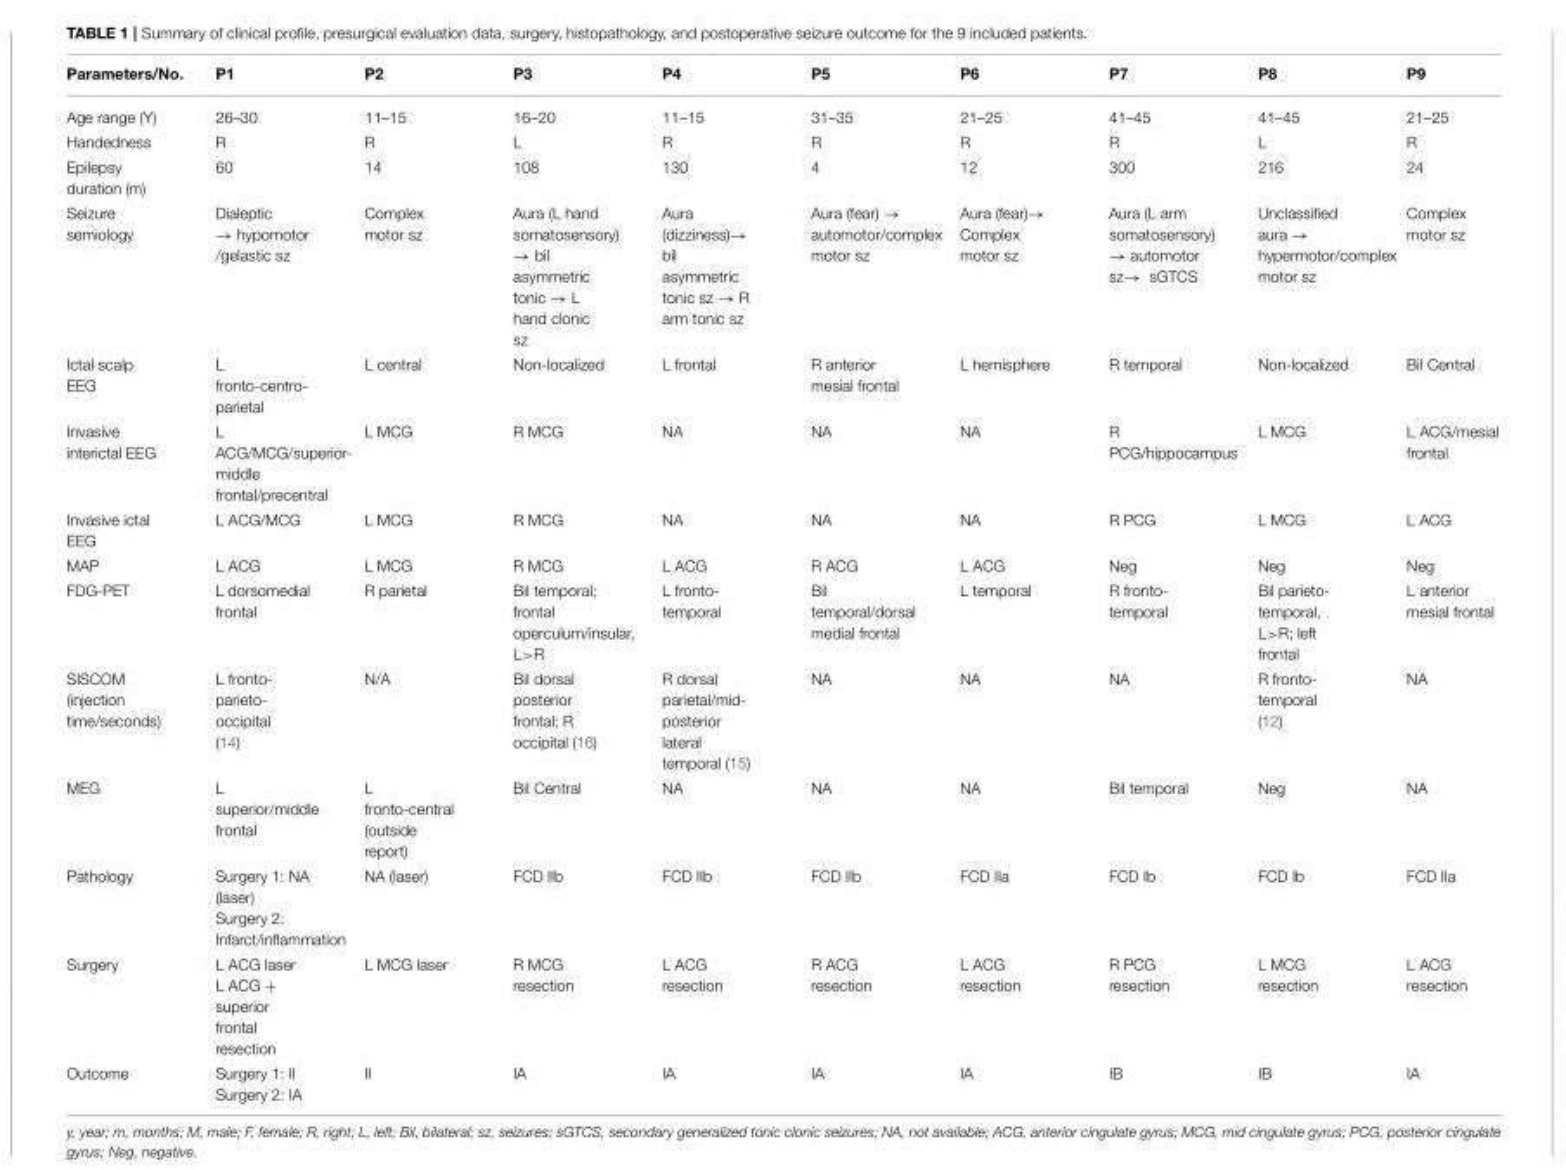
<table><thead><tr><td>Parameters/No.</td><td>P1</td><td>P2</td><td>P3</td><td>P4</td><td>P5</td><td>P6</td><td>P7</td><td>P8</td><td>P9</td></tr></thead><tbody><tr><td>Age range (Y)</td><td>26–30</td><td>11–15</td><td>16–20</td><td>11–15</td><td>31–35</td><td>21–25</td><td>41–45</td><td>41–45</td><td>21–25</td></tr><tr><td>Handedness</td><td>R</td><td>R</td><td>L</td><td>R</td><td>R</td><td>R</td><td>R</td><td>L</td><td>R</td></tr><tr><td>Epilepsy duration (m)</td><td>60</td><td>14</td><td>108</td><td>130</td><td>4</td><td>12</td><td>300</td><td>216</td><td>24</td></tr><tr><td>Seizure semiology</td><td>Dialeptic → hypomotor /gelastic sz</td><td>Complex motor sz</td><td>Aura (L hand somatosensory) → bil asymmetric tonic → L hand clonic sz</td><td>Aura (dizziness)→ bil asymmetric tonic sz → R arm tonic sz</td><td>Aura (fear) → automotor/complex motor sz</td><td>Aura (fear)→ Complex motor sz</td><td>Aura (L arm somatosensory) → automotor sz→ sGTCS</td><td>Unclassified aura → hypermotor/complex motor sz</td><td>Complex motor sz</td></tr><tr><td>Ictal scalp EEG</td><td>L fronto-centro- parietal</td><td>L central</td><td>Non-localized</td><td>L frontal</td><td>R anterior mesial frontal</td><td>L hemisphere</td><td>R temporal</td><td>Non-localized</td><td>Bil Central</td></tr><tr><td>Invasive interictal EEG</td><td>L ACG/MCG/superior- middle frontal/precentral</td><td>L MCG</td><td>R MCG</td><td>NA</td><td>NA</td><td>NA</td><td>R PCG/hippocampus</td><td>L MCG</td><td>L ACG/mesial frontal</td></tr><tr><td>Invasive ictal EEG</td><td>L ACG/MCG</td><td>L MCG</td><td>R MCG</td><td>NA</td><td>NA</td><td>NA</td><td>R PCG</td><td>L MCG</td><td>L ACG</td></tr><tr><td>MAP</td><td>L ACG</td><td>L MCG</td><td>R MCG</td><td>L ACG</td><td>R ACG</td><td>L ACG</td><td>Neg</td><td>Neg</td><td>Neg</td></tr><tr><td>FDG-PET</td><td>L dorsomedial frontal</td><td>R parietal</td><td>Bil temporal; frontal operculum/insular, L&gt;R</td><td>L fronto- temporal</td><td>Bil temporal/dorsal medial frontal</td><td>L temporal</td><td>R fronto- temporal</td><td>Bil parieto- temporal, L&gt;R; left frontal</td><td>L anterior mesial frontal</td></tr><tr><td>SISCOM (injection time/seconds)</td><td>L fronto- parieto- occipital (14)</td><td>N/A</td><td>Bil dorsal posterior frontal; R occipital (16)</td><td>R dorsal parietal/mid- posterior lateral temporal (15)</td><td>NA</td><td>NA</td><td>NA</td><td>R fronto- temporal (12)</td><td>NA</td></tr><tr><td>MEG</td><td>L superior/middle frontal</td><td>L fronto-central (outside report)</td><td>Bil Central</td><td>NA</td><td>NA</td><td>NA</td><td>Bil temporal</td><td>Neg</td><td>NA</td></tr><tr><td>Pathology</td><td>Surgery 1: NA (laser) Surgery 2: Infarct/inflammation</td><td>NA (laser)</td><td>FCD IIb</td><td>FCD IIb</td><td>FCD IIb</td><td>FCD IIa</td><td>FCD Ib</td><td>FCD Ib</td><td>FCD IIa</td></tr><tr><td>Surgery</td><td>L ACG laser L ACG + superior frontal resection</td><td>L MCG laser</td><td>R MCG resection</td><td>L ACG resection</td><td>R ACG resection</td><td>L ACG resection</td><td>R PCG resection</td><td>L MCG resection</td><td>L ACG resection</td></tr><tr><td>Outcome</td><td>Surgery 1: II Surgery 2: IA</td><td>II</td><td>IA</td><td>IA</td><td>IA</td><td>IA</td><td>IB</td><td>IB</td><td>IA</td></tr></tbody></table>